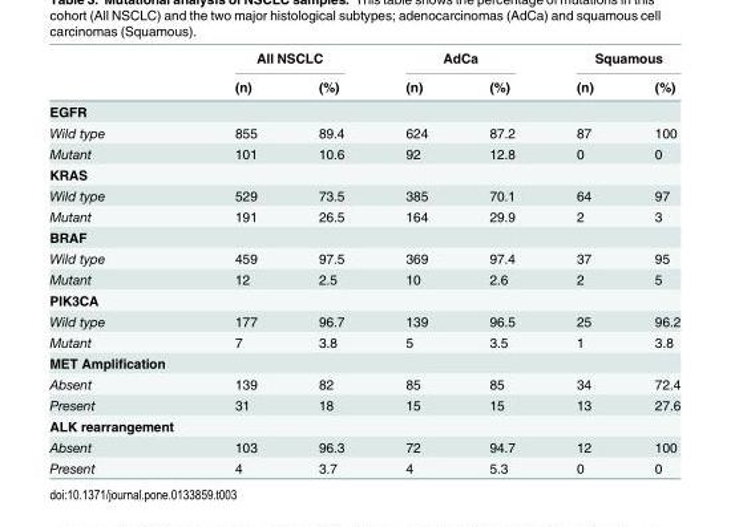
<table><thead><tr><td rowspan="2"></td><td colspan="2">All NSCLC</td><td colspan="2">AdCa</td><td colspan="2">Squamous</td></tr><tr><td>(n)</td><td>(%)</td><td>(n)</td><td>(%)</td><td>(n)</td><td>(%)</td></tr></thead><tbody><tr><td colspan="7">EGFR</td></tr><tr><td>Wild type</td><td>855</td><td>89.4</td><td>624</td><td>87.2</td><td>87</td><td>100</td></tr><tr><td>Mutant</td><td>101</td><td>10.6</td><td>92</td><td>12.8</td><td>0</td><td>0</td></tr><tr><td colspan="7">KRAS</td></tr><tr><td>Wild type</td><td>529</td><td>73.5</td><td>385</td><td>70.1</td><td>64</td><td>97</td></tr><tr><td>Mutant</td><td>191</td><td>26.5</td><td>164</td><td>29.9</td><td>2</td><td>3</td></tr><tr><td colspan="7">BRAF</td></tr><tr><td>Wild type</td><td>459</td><td>97.5</td><td>369</td><td>97.4</td><td>37</td><td>95</td></tr><tr><td>Mutant</td><td>12</td><td>2.5</td><td>10</td><td>2.6</td><td>2</td><td>5</td></tr><tr><td colspan="7">PIK3CA</td></tr><tr><td>Wild type</td><td>177</td><td>96.7</td><td>139</td><td>96.5</td><td>25</td><td>96.2</td></tr><tr><td>Mutant</td><td>7</td><td>3.8</td><td>5</td><td>3.5</td><td>1</td><td>3.8</td></tr><tr><td colspan="7">MET Amplification</td></tr><tr><td>Absent</td><td>139</td><td>82</td><td>85</td><td>85</td><td>34</td><td>72.4</td></tr><tr><td>Present</td><td>31</td><td>18</td><td>15</td><td>15</td><td>13</td><td>27.6</td></tr><tr><td colspan="7">ALK rearrangement</td></tr><tr><td>Absent</td><td>103</td><td>96.3</td><td>72</td><td>94.7</td><td>12</td><td>100</td></tr><tr><td>Present</td><td>4</td><td>3.7</td><td>4</td><td>5.3</td><td>0</td><td>0</td></tr></tbody></table>